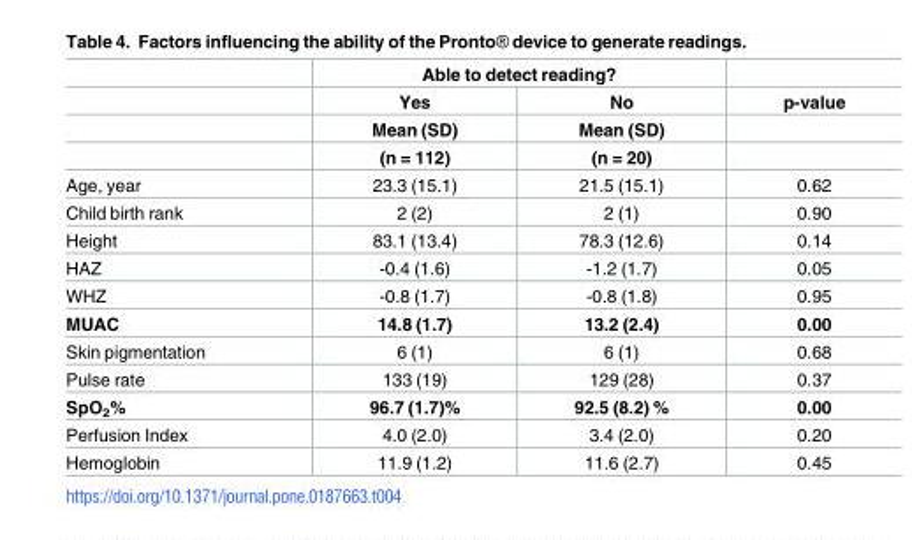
<table><thead><tr><td rowspan="4"></td><td colspan="2">Able to detect reading?</td><td rowspan="4">p-value</td></tr><tr><td rowspan="3">Yes Mean (SD) (n = 112)</td><td rowspan="3">No Mean (SD) (n = 20)</td></tr><tr></tr><tr></tr></thead><tbody><tr><td>Age, year</td><td>23.3 (15.1)</td><td>21.5 (15.1)</td><td>0.62</td></tr><tr><td>Child birth rank</td><td>2 (2)</td><td>2 (1)</td><td>0.90</td></tr><tr><td>Height</td><td>83.1 (13.4)</td><td>78.3 (12.6)</td><td>0.14</td></tr><tr><td>HAZ</td><td>-0.4 (1.6)</td><td>-1.2 (1.7)</td><td>0.05</td></tr><tr><td>WHZ</td><td>-0.8 (1.7)</td><td>-0.8 (1.8)</td><td>0.95</td></tr><tr><td>MUAC</td><td>14.8 (1.7)</td><td>13.2 (2.4)</td><td>0.00</td></tr><tr><td>Skin pigmentation</td><td>6 (1)</td><td>6 (1)</td><td>0.68</td></tr><tr><td>Pulse rate</td><td>133 (19)</td><td>129 (28)</td><td>0.37</td></tr><tr><td>SpO<sub>2</sub>%</td><td>96.7 (1.7)%</td><td>92.5 (8.2) %</td><td>0.00</td></tr><tr><td>Perfusion Index</td><td>4.0 (2.0)</td><td>3.4 (2.0)</td><td>0.20</td></tr><tr><td>Hemoglobin</td><td>11.9 (1.2)</td><td>11.6 (2.7)</td><td>0.45</td></tr></tbody></table>